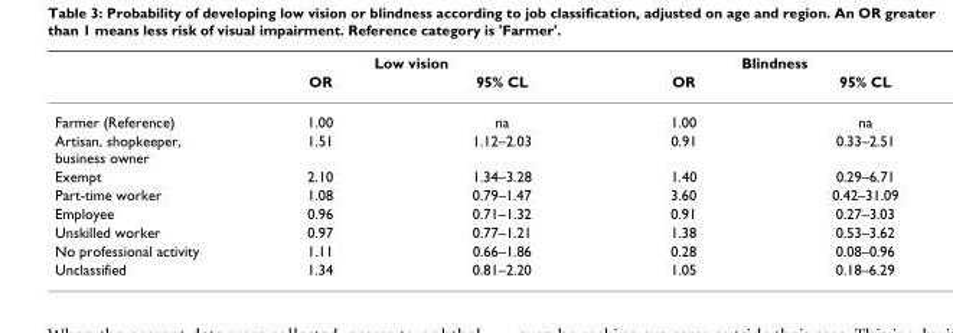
<table><thead><tr><td rowspan="2"></td><td colspan="2">Low vision</td><td colspan="2">Blindness</td></tr><tr><td>OR</td><td>95% CL</td><td>OR</td><td>95% CL</td></tr></thead><tbody><tr><td>Farmer (Reference)</td><td>1.00</td><td>na</td><td>1.00</td><td>na</td></tr><tr><td>Artisan, shopkeeper, business owner</td><td>1.51</td><td>1.12–2.03</td><td>0.91</td><td>0.33–2.51</td></tr><tr><td>Exempt</td><td>2.10</td><td>1.34–3.28</td><td>1.40</td><td>0.29–6.71</td></tr><tr><td>Part-time worker</td><td>1.08</td><td>0.79–1.47</td><td>3.60</td><td>0.42–31.09</td></tr><tr><td>Employee</td><td>0.96</td><td>0.71–1.32</td><td>0.91</td><td>0.27–3.03</td></tr><tr><td>Unskilled worker</td><td>0.97</td><td>0.77–1.21</td><td>1.38</td><td>0.53–3.62</td></tr><tr><td>No professional activity</td><td>1.11</td><td>0.66–1.86</td><td>0.28</td><td>0.08–0.96</td></tr><tr><td>Unclassified</td><td>1.34</td><td>0.81–2.20</td><td>1.05</td><td>0.18–6.29</td></tr></tbody></table>